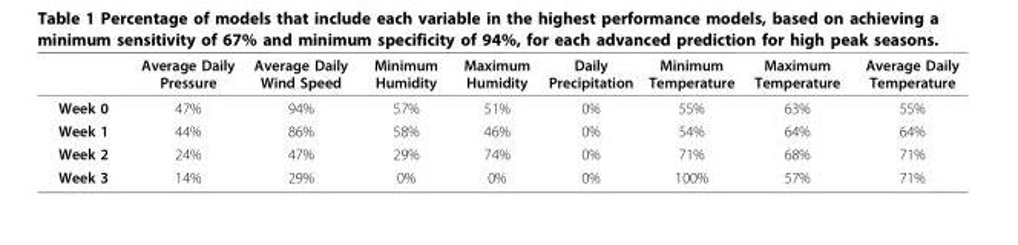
<table><thead><tr><td></td><td>Average Daily Pressure</td><td>Average Daily Wind Speed</td><td>Minimum Humidity</td><td>Maximum Humidity</td><td>Daily Precipitation</td><td>Minimum Temperature</td><td>Maximum Temperature</td><td>Average Daily Temperature</td></tr></thead><tbody><tr><td>Week 0</td><td>47%</td><td>94%</td><td>57%</td><td>51%</td><td>0%</td><td>55%</td><td>63%</td><td>55%</td></tr><tr><td>Week 1</td><td>44%</td><td>86%</td><td>58%</td><td>46%</td><td>0%</td><td>54%</td><td>64%</td><td>64%</td></tr><tr><td>Week 2</td><td>24%</td><td>47%</td><td>29%</td><td>74%</td><td>0%</td><td>71%</td><td>68%</td><td>71%</td></tr><tr><td>Week 3</td><td>14%</td><td>29%</td><td>0%</td><td>0%</td><td>0%</td><td>100%</td><td>57%</td><td>71%</td></tr></tbody></table>